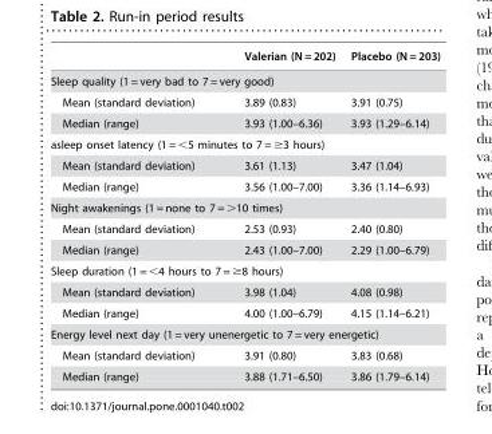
<table><thead><tr><td></td><td>Valerian (N = 202)</td><td>Placebo (N = 203)</td></tr></thead><tbody><tr><td colspan="3">Sleep quality (1 = very bad to 7 = very good)</td></tr><tr><td>Mean (standard deviation)</td><td>3.89 (0.83)</td><td>3.91 (0.75)</td></tr><tr><td>Median (range)</td><td>3.93 (1.00–6.36)</td><td>3.93 (1.29–6.14)</td></tr><tr><td colspan="3">asleep onset latency (1 = &lt;5 minutes to 7 = ≥3 hours)</td></tr><tr><td>Mean (standard deviation)</td><td>3.61 (1.13)</td><td>3.47 (1.04)</td></tr><tr><td>Median (range)</td><td>3.56 (1.00–7.00)</td><td>3.36 (1.14–6.93)</td></tr><tr><td colspan="3">Night awakenings (1 = none to 7 = &gt;10 times)</td></tr><tr><td>Mean (standard deviation)</td><td>2.53 (0.93)</td><td>2.40 (0.80)</td></tr><tr><td>Median (range)</td><td>2.43 (1.00–7.00)</td><td>2.29 (1.00–6.79)</td></tr><tr><td colspan="3">Sleep duration (1 = &lt;4 hours to 7 = ≥8 hours)</td></tr><tr><td>Mean (standard deviation)</td><td>3.98 (1.04)</td><td>4.08 (0.98)</td></tr><tr><td>Median (range)</td><td>4.00 (1.00–6.79)</td><td>4.15 (1.14–6.21)</td></tr><tr><td colspan="3">Energy level next day (1 = very unenergetic to 7 = very energetic)</td></tr><tr><td>Mean (standard deviation)</td><td>3.91 (0.80)</td><td>3.83 (0.68)</td></tr><tr><td>Median (range)</td><td>3.88 (1.71–6.50)</td><td>3.86 (1.79–6.14)</td></tr></tbody></table>